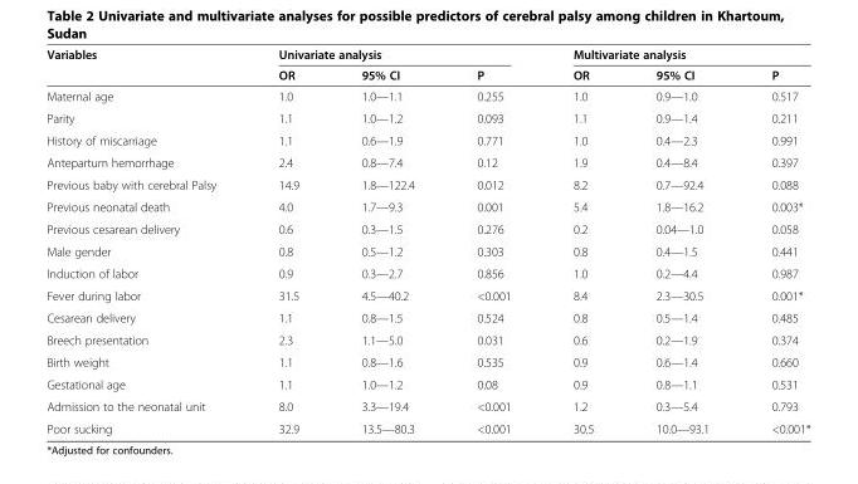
<table><thead><tr><td rowspan="2">Variables</td><td colspan="3">Univariate analysis</td><td colspan="3">Multivariate analysis</td></tr><tr><td>OR</td><td>95% CI</td><td>P</td><td>OR</td><td>95% CI</td><td>P</td></tr></thead><tbody><tr><td>Maternal age</td><td>1.0</td><td>1.0—1.1</td><td>0.255</td><td>1.0</td><td>0.9—1.0</td><td>0.517</td></tr><tr><td>Parity</td><td>1.1</td><td>1.0—1.2</td><td>0.093</td><td>1.1</td><td>0.9—1.4</td><td>0.211</td></tr><tr><td>History of miscarriage</td><td>1.1</td><td>0.6—1.9</td><td>0.771</td><td>1.0</td><td>0.4—2.3</td><td>0.991</td></tr><tr><td>Antepartum hemorrhage</td><td>2.4</td><td>0.8—7.4</td><td>0.12</td><td>1.9</td><td>0.4—8.4</td><td>0.397</td></tr><tr><td>Previous baby with cerebral Palsy</td><td>14.9</td><td>1.8—122.4</td><td>0.012</td><td>8.2</td><td>0.7—92.4</td><td>0.088</td></tr><tr><td>Previous neonatal death</td><td>4.0</td><td>1.7—9.3</td><td>0.001</td><td>5.4</td><td>1.8—16.2</td><td>0.003*</td></tr><tr><td>Previous cesarean delivery</td><td>0.6</td><td>0.3—1.5</td><td>0.276</td><td>0.2</td><td>0.04—1.0</td><td>0.058</td></tr><tr><td>Male gender</td><td>0.8</td><td>0.5—1.2</td><td>0.303</td><td>0.8</td><td>0.4—1.5</td><td>0.441</td></tr><tr><td>Induction of labor</td><td>0.9</td><td>0.3—2.7</td><td>0.856</td><td>1.0</td><td>0.2—4.4</td><td>0.987</td></tr><tr><td>Fever during labor</td><td>31.5</td><td>4.5—40.2</td><td>&lt;0.001</td><td>8.4</td><td>2.3—30.5</td><td>0.001*</td></tr><tr><td>Cesarean delivery</td><td>1.1</td><td>0.8—1.5</td><td>0.524</td><td>0.8</td><td>0.5—1.4</td><td>0.485</td></tr><tr><td>Breech presentation</td><td>2.3</td><td>1.1—5.0</td><td>0.031</td><td>0.6</td><td>0.2—1.9</td><td>0.374</td></tr><tr><td>Birth weight</td><td>1.1</td><td>0.8—1.6</td><td>0.535</td><td>0.9</td><td>0.6—1.4</td><td>0.660</td></tr><tr><td>Gestational age</td><td>1.1</td><td>1.0—1.2</td><td>0.08</td><td>0.9</td><td>0.8—1.1</td><td>0.531</td></tr><tr><td>Admission to the neonatal unit</td><td>8.0</td><td>3.3—19.4</td><td>&lt;0.001</td><td>1.2</td><td>0.3—5.4</td><td>0.793</td></tr><tr><td>Poor sucking</td><td>32.9</td><td>13.5—80.3</td><td>&lt;0.001</td><td>30.5</td><td>10.0—93.1</td><td>&lt;0.001*</td></tr></tbody></table>